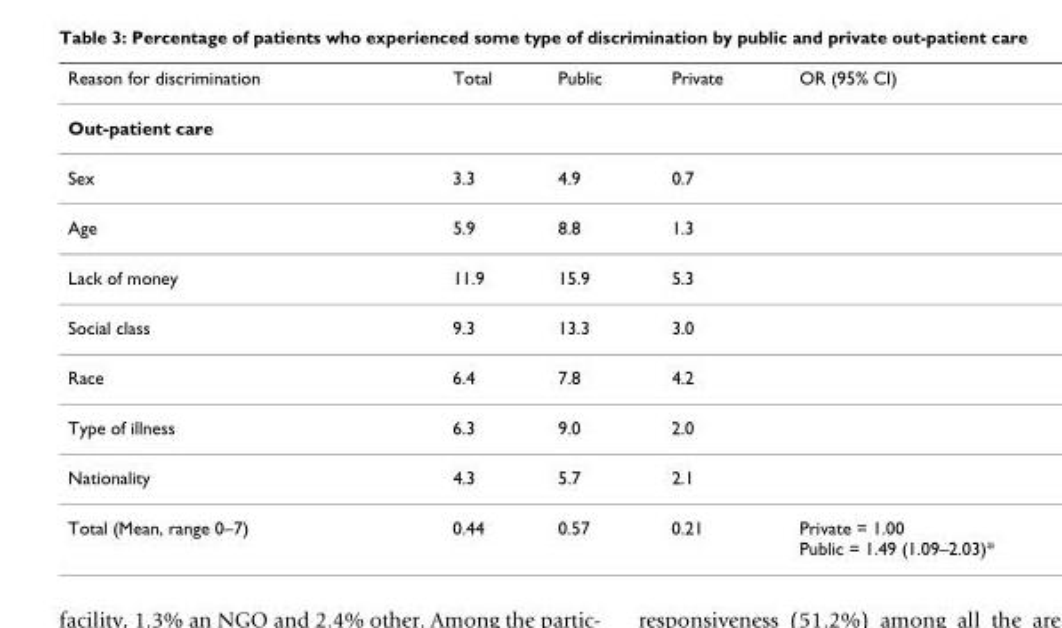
<table><thead><tr><td>Reason for discrimination</td><td>Total</td><td>Public</td><td>Private</td><td>OR (95% CI)</td></tr></thead><tbody><tr><td colspan="5">Out-patient care</td></tr><tr><td>Sex</td><td>3.3</td><td>4.9</td><td>0.7</td><td></td></tr><tr><td>Age</td><td>5.9</td><td>8.8</td><td>1.3</td><td></td></tr><tr><td>Lack of money</td><td>11.9</td><td>15.9</td><td>5.3</td><td></td></tr><tr><td>Social class</td><td>9.3</td><td>13.3</td><td>3.0</td><td></td></tr><tr><td>Race</td><td>6.4</td><td>7.8</td><td>4.2</td><td></td></tr><tr><td>Type of illness</td><td>6.3</td><td>9.0</td><td>2.0</td><td></td></tr><tr><td>Nationality</td><td>4.3</td><td>5.7</td><td>2.1</td><td></td></tr><tr><td>Total (Mean, range 0–7)</td><td>0.44</td><td>0.57</td><td>0.21</td><td>Private = 1.00 Public = 1.49 (1.09–2.03)*</td></tr></tbody></table>